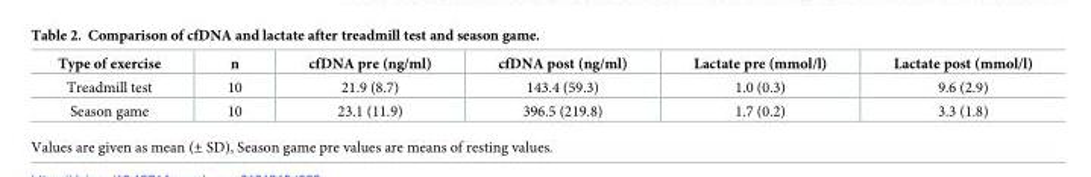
<table><thead><tr><td>Type of exercise</td><td>n</td><td>cfDNA pre (ng/ml)</td><td>cfDNA post (ng/ml)</td><td>Lactate pre (mmol/l)</td><td>Lactate post (mmol/l)</td></tr></thead><tbody><tr><td>Treadmill test</td><td>10</td><td>21.9 (8.7)</td><td>143.4 (59.3)</td><td>1.0 (0.3)</td><td>9.6 (2.9)</td></tr><tr><td>Season game</td><td>10</td><td>23.1 (11.9)</td><td>396.5 (219.8)</td><td>1.7 (0.2)</td><td>3.3 (1.8)</td></tr></tbody></table>